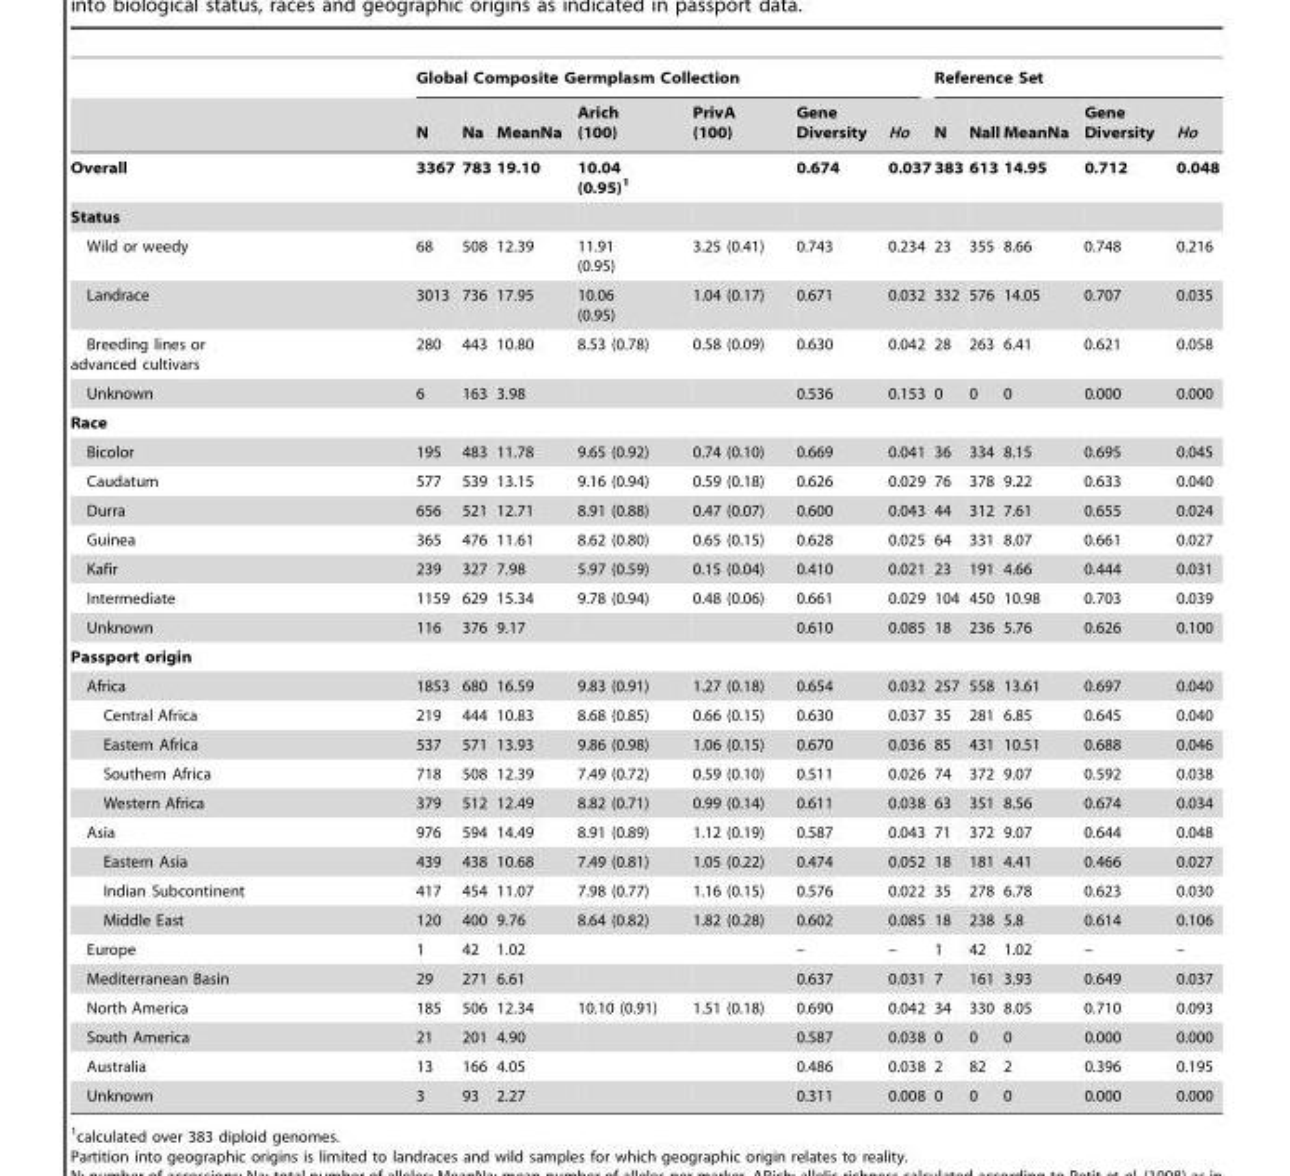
<table><thead><tr><td rowspan="2"></td><td colspan="7">Global Composite Germplasm Collection</td><td colspan="5">Reference Set</td></tr><tr><td>N</td><td>Na</td><td>MeanNa</td><td>Arich (100)</td><td>PrivA (100)</td><td>Gene Diversity</td><td>Ho</td><td>N</td><td>Nall</td><td>MeanNa</td><td>Gene Diversity</td><td>Ho</td></tr></thead><tbody><tr><td>Overall</td><td>3367</td><td>783</td><td>19.10</td><td>10.04 (0.95)1</td><td></td><td>0.674</td><td>0.037</td><td>383</td><td>613</td><td>14.95</td><td>0.712</td><td>0.048</td></tr><tr><td colspan="13">Status</td></tr><tr><td>Wild or weedy</td><td>68</td><td>508</td><td>12.39</td><td>11.91 (0.95)</td><td>3.25 (0.41)</td><td>0.743</td><td>0.234</td><td>23</td><td>355</td><td>8.66</td><td>0.748</td><td>0.216</td></tr><tr><td>Landrace</td><td>3013</td><td>736</td><td>17.95</td><td>10.06 (0.95)</td><td>1.04 (0.17)</td><td>0.671</td><td>0.032</td><td>332</td><td>576</td><td>14.05</td><td>0.707</td><td>0.035</td></tr><tr><td>Breeding lines or advanced cultivars</td><td>280</td><td>443</td><td>10.80</td><td>8.53 (0.78)</td><td>0.58 (0.09)</td><td>0.630</td><td>0.042</td><td>28</td><td>263</td><td>6.41</td><td>0.621</td><td>0.058</td></tr><tr><td>Unknown</td><td>6</td><td>163</td><td>3.98</td><td></td><td></td><td>0.536</td><td>0.153</td><td>0</td><td>0</td><td>0</td><td>0.000</td><td>0.000</td></tr><tr><td colspan="13">Race</td></tr><tr><td>Bicolor</td><td>195</td><td>483</td><td>11.78</td><td>9.65 (0.92)</td><td>0.74 (0.10)</td><td>0.669</td><td>0.041</td><td>36</td><td>334</td><td>8.15</td><td>0.695</td><td>0.045</td></tr><tr><td>Caudatum</td><td>577</td><td>539</td><td>13.15</td><td>9.16 (0.94)</td><td>0.59 (0.18)</td><td>0.626</td><td>0.029</td><td>76</td><td>378</td><td>9.22</td><td>0.633</td><td>0.040</td></tr><tr><td>Durra</td><td>656</td><td>521</td><td>12.71</td><td>8.91 (0.88)</td><td>0.47 (0.07)</td><td>0.600</td><td>0.043</td><td>44</td><td>312</td><td>7.61</td><td>0.655</td><td>0.024</td></tr><tr><td>Guinea</td><td>365</td><td>476</td><td>11.61</td><td>8.62 (0.80)</td><td>0.65 (0.15)</td><td>0.628</td><td>0.025</td><td>64</td><td>331</td><td>8.07</td><td>0.661</td><td>0.027</td></tr><tr><td>Kafir</td><td>239</td><td>327</td><td>7.98</td><td>5.97 (0.59)</td><td>0.15 (0.04)</td><td>0.410</td><td>0.021</td><td>23</td><td>191</td><td>4.66</td><td>0.444</td><td>0.031</td></tr><tr><td>Intermediate</td><td>1159</td><td>629</td><td>15.34</td><td>9.78 (0.94)</td><td>0.48 (0.06)</td><td>0.661</td><td>0.029</td><td>104</td><td>450</td><td>10.98</td><td>0.703</td><td>0.039</td></tr><tr><td>Unknown</td><td>116</td><td>376</td><td>9.17</td><td></td><td></td><td>0.610</td><td>0.085</td><td>18</td><td>236</td><td>5.76</td><td>0.626</td><td>0.100</td></tr><tr><td colspan="13">Passport origin</td></tr><tr><td>Africa</td><td>1853</td><td>680</td><td>16.59</td><td>9.83 (0.91)</td><td>1.27 (0.18)</td><td>0.654</td><td>0.032</td><td>257</td><td>558</td><td>13.61</td><td>0.697</td><td>0.040</td></tr><tr><td>Central Africa</td><td>219</td><td>444</td><td>10.83</td><td>8.68 (0.85)</td><td>0.66 (0.15)</td><td>0.630</td><td>0.037</td><td>35</td><td>281</td><td>6.85</td><td>0.645</td><td>0.040</td></tr><tr><td>Eastern Africa</td><td>537</td><td>571</td><td>13.93</td><td>9.86 (0.98)</td><td>1.06 (0.15)</td><td>0.670</td><td>0.036</td><td>85</td><td>431</td><td>10.51</td><td>0.688</td><td>0.046</td></tr><tr><td>Southern Africa</td><td>718</td><td>508</td><td>12.39</td><td>7.49 (0.72)</td><td>0.59 (0.10)</td><td>0.511</td><td>0.026</td><td>74</td><td>372</td><td>9.07</td><td>0.592</td><td>0.038</td></tr><tr><td>Western Africa</td><td>379</td><td>512</td><td>12.49</td><td>8.82 (0.71)</td><td>0.99 (0.14)</td><td>0.611</td><td>0.038</td><td>63</td><td>351</td><td>8.56</td><td>0.674</td><td>0.034</td></tr><tr><td>Asia</td><td>976</td><td>594</td><td>14.49</td><td>8.91 (0.89)</td><td>1.12 (0.19)</td><td>0.587</td><td>0.043</td><td>71</td><td>372</td><td>9.07</td><td>0.644</td><td>0.048</td></tr><tr><td>Eastern Asia</td><td>439</td><td>438</td><td>10.68</td><td>7.49 (0.81)</td><td>1.05 (0.22)</td><td>0.474</td><td>0.052</td><td>18</td><td>181</td><td>4.41</td><td>0.466</td><td>0.027</td></tr><tr><td>Indian Subcontinent</td><td>417</td><td>454</td><td>11.07</td><td>7.98 (0.77)</td><td>1.16 (0.15)</td><td>0.576</td><td>0.022</td><td>35</td><td>278</td><td>6.78</td><td>0.623</td><td>0.030</td></tr><tr><td>Middle East</td><td>120</td><td>400</td><td>9.76</td><td>8.64 (0.82)</td><td>1.82 (0.28)</td><td>0.602</td><td>0.085</td><td>18</td><td>238</td><td>5.8</td><td>0.614</td><td>0.106</td></tr><tr><td>Europe</td><td>1</td><td>42</td><td>1.02</td><td></td><td></td><td>–</td><td>–</td><td>1</td><td>42</td><td>1.02</td><td>–</td><td>–</td></tr><tr><td>Mediterranean Basin</td><td>29</td><td>271</td><td>6.61</td><td></td><td></td><td>0.637</td><td>0.031</td><td>7</td><td>161</td><td>3.93</td><td>0.649</td><td>0.037</td></tr><tr><td>North America</td><td>185</td><td>506</td><td>12.34</td><td>10.10 (0.91)</td><td>1.51 (0.18)</td><td>0.690</td><td>0.042</td><td>34</td><td>330</td><td>8.05</td><td>0.710</td><td>0.093</td></tr><tr><td>South America</td><td>21</td><td>201</td><td>4.90</td><td></td><td></td><td>0.587</td><td>0.038</td><td>0</td><td>0</td><td>0</td><td>0.000</td><td>0.000</td></tr><tr><td>Australia</td><td>13</td><td>166</td><td>4.05</td><td></td><td></td><td>0.486</td><td>0.038</td><td>2</td><td>82</td><td>2</td><td>0.396</td><td>0.195</td></tr><tr><td>Unknown</td><td>3</td><td>93</td><td>2.27</td><td></td><td></td><td>0.311</td><td>0.008</td><td>0</td><td>0</td><td>0</td><td>0.000</td><td>0.000</td></tr></tbody></table>